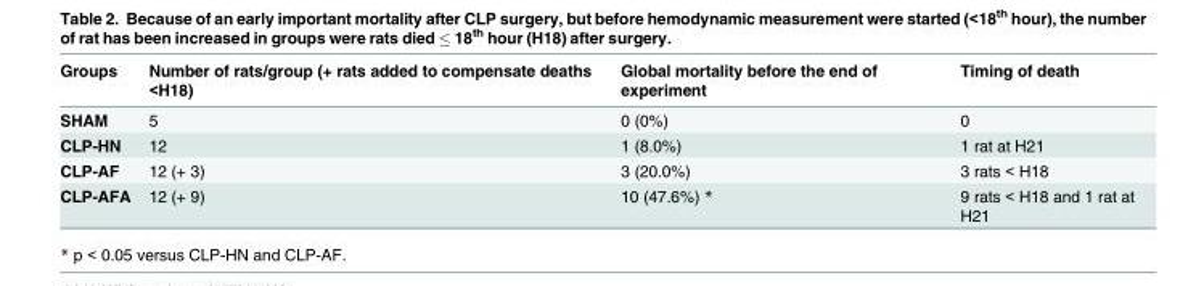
<table><thead><tr><td>Groups</td><td>Number of rats/group (+ rats added to compensate deaths &lt;H18)</td><td>Global mortality before the end of experiment</td><td>Timing of death</td></tr></thead><tbody><tr><td>SHAM</td><td>5</td><td>0 (0%)</td><td>0</td></tr><tr><td>CLP-HN</td><td>12</td><td>1 (8.0%)</td><td>1 rat at H21</td></tr><tr><td>CLP-AF</td><td>12 (+ 3)</td><td>3 (20.0%)</td><td>3 rats &lt; H18</td></tr><tr><td>CLP-AFA</td><td>12 (+ 9)</td><td>10 (47.6%) *</td><td>9 rats &lt; H18 and 1 rat at H21</td></tr></tbody></table>